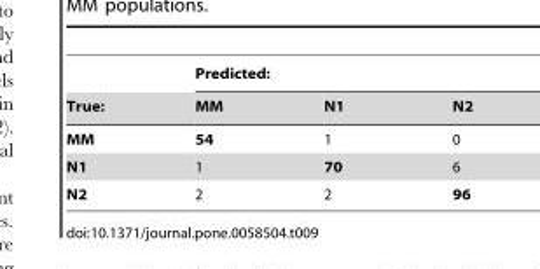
<table><thead><tr><td rowspan="2">True:</td><td colspan="3">Predicted:</td></tr><tr><td>MM</td><td>N1</td><td>N2</td></tr></thead><tbody><tr><td>MM</td><td>54</td><td>1</td><td>0</td></tr><tr><td>N1</td><td>1</td><td>70</td><td>6</td></tr><tr><td>N2</td><td>2</td><td>2</td><td>96</td></tr></tbody></table>